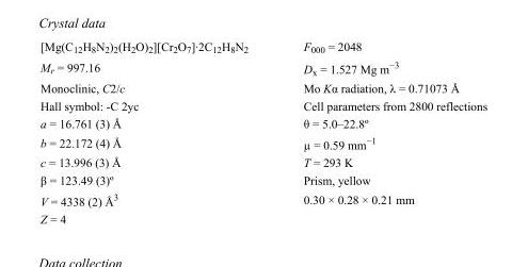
<table><tbody><tr><td>[Mg(C<sub>12</sub>H<sub>8</sub>N<sub>2</sub>)<sub>2</sub>(H<sub>2</sub>O)<sub>2</sub>][Cr<sub>2</sub>O<sub>7</sub>]·2C<sub>12</sub>H<sub>8</sub>N<sub>2</sub></td><td>F000 = 2048</td></tr><tr><td>M<sub>r</sub> = 997.16</td><td>D<sub>x</sub> = 1.527 Mg m<sup>−3</sup></td></tr><tr><td>Monoclinic, C2/c</td><td>Mo Kα radiation, λ = 0.71073 Å</td></tr><tr><td>Hall symbol: -C 2yc</td><td>Cell parameters from 2800 reflections</td></tr><tr><td>a = 16.761 (3) Å</td><td>θ = 5.0–22.8º</td></tr><tr><td>b = 22.172 (4) Å</td><td>µ = 0.59 mm<sup>−1</sup></td></tr><tr><td>c = 13.996 (3) Å</td><td>T = 293 K</td></tr><tr><td>β = 123.49 (3)º</td><td>Prism, yellow</td></tr><tr><td>V = 4338 (2) Å<sup>3</sup></td><td>0.30 × 0.28 × 0.21 mm</td></tr><tr><td>Z = 4</td><td></td></tr></tbody></table>